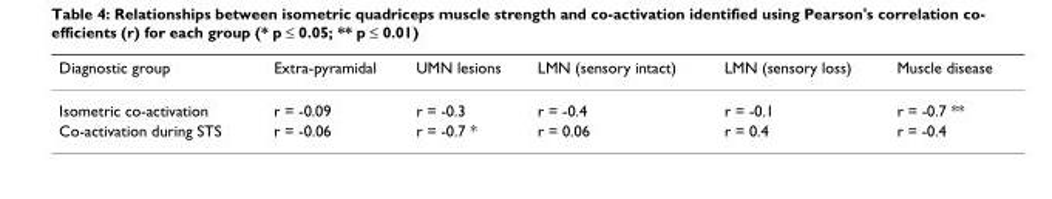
<table><thead><tr><td>Diagnostic group</td><td>Extra-pyramidal</td><td>UMN lesions</td><td>LMN (sensory intact)</td><td>LMN (sensory loss)</td><td>Muscle disease</td></tr></thead><tbody><tr><td>Isometric co-activation</td><td>r = -0.09</td><td>r = -0.3</td><td>r = -0.4</td><td>r = -0.1</td><td>r = -0.7 **</td></tr><tr><td>Co-activation during STS</td><td>r = -0.06</td><td>r = -0.7 *</td><td>r = 0.06</td><td>r = 0.4</td><td>r = -0.4</td></tr></tbody></table>